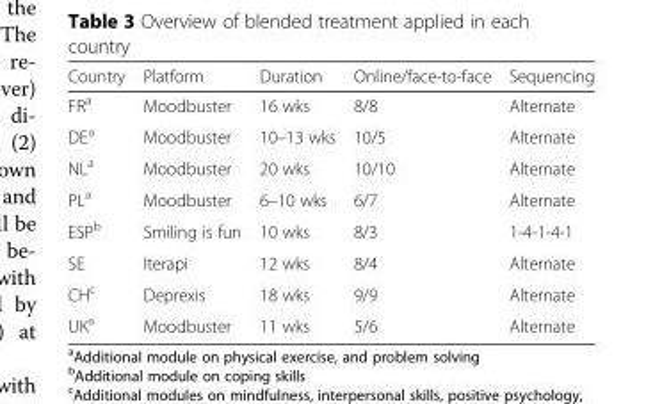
<table><thead><tr><td>Country</td><td>Platform</td><td>Duration</td><td>Online/face-to-face</td><td>Sequencing</td></tr></thead><tbody><tr><td>FR<sup>a</sup></td><td>Moodbuster</td><td>16 wks</td><td>8/8</td><td>Alternate</td></tr><tr><td>DE<sup>a</sup></td><td>Moodbuster</td><td>10–13 wks</td><td>10/5</td><td>Alternate</td></tr><tr><td>NL<sup>a</sup></td><td>Moodbuster</td><td>20 wks</td><td>10/10</td><td>Alternate</td></tr><tr><td>PL<sup>a</sup></td><td>Moodbuster</td><td>6–10 wks</td><td>6/7</td><td>Alternate</td></tr><tr><td>ESP<sup>b</sup></td><td>Smiling is fun</td><td>10 wks</td><td>8/3</td><td>1-4-1-4-1</td></tr><tr><td>SE</td><td>Iterapi</td><td>12 wks</td><td>8/4</td><td>Alternate</td></tr><tr><td>CH<sup>c</sup></td><td>Deprexis</td><td>18 wks</td><td>9/9</td><td>Alternate</td></tr><tr><td>UK<sup>a</sup></td><td>Moodbuster</td><td>11 wks</td><td>5/6</td><td>Alternate</td></tr></tbody></table>